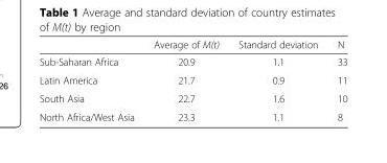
<table><thead><tr><td></td><td>Average of M(t)</td><td>Standard deviation</td><td>N</td></tr></thead><tbody><tr><td>Sub-Saharan Africa</td><td>20.9</td><td>1.1</td><td>33</td></tr><tr><td>Latin America</td><td>21.7</td><td>0.9</td><td>11</td></tr><tr><td>South Asia</td><td>22.7</td><td>1.6</td><td>10</td></tr><tr><td>North Africa/West Asia</td><td>23.3</td><td>1.1</td><td>8</td></tr></tbody></table>